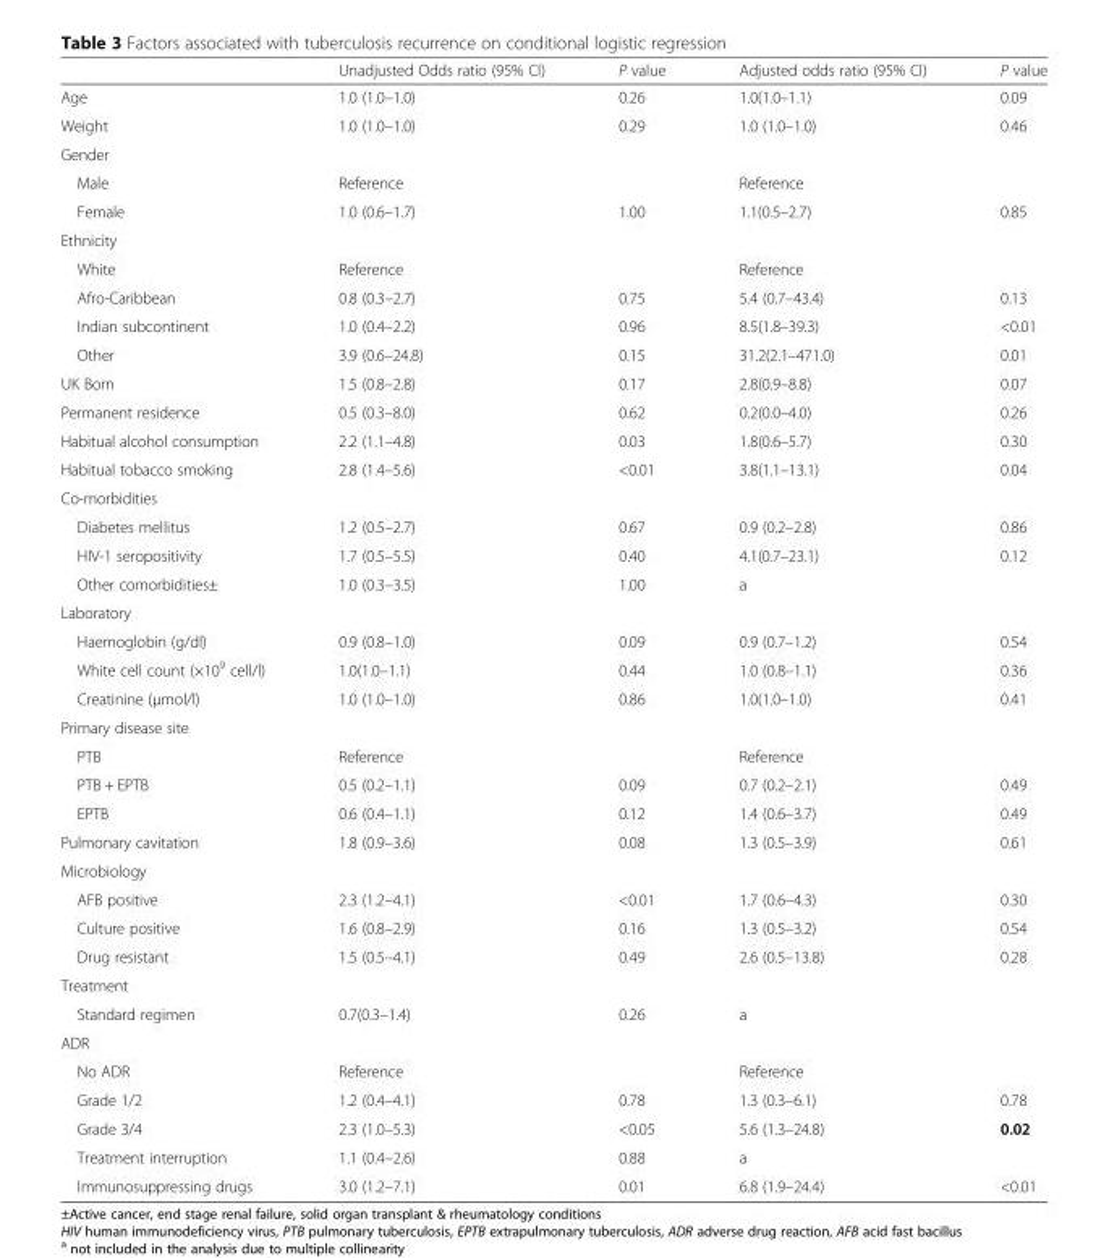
<table><thead><tr><td></td><td>Unadjusted Odds ratio (95% CI)</td><td>P value</td><td>Adjusted odds ratio (95% CI)</td><td>P value</td></tr></thead><tbody><tr><td>Age</td><td>1.0 (1.0–1.0)</td><td>0.26</td><td>1.0(1.0–1.1)</td><td>0.09</td></tr><tr><td>Weight</td><td>1.0 (1.0–1.0)</td><td>0.29</td><td>1.0 (1.0–1.0)</td><td>0.46</td></tr><tr><td colspan="5">Gender</td></tr><tr><td>Male</td><td>Reference</td><td></td><td>Reference</td><td></td></tr><tr><td>Female</td><td>1.0 (0.6–1.7)</td><td>1.00</td><td>1.1(0.5–2.7)</td><td>0.85</td></tr><tr><td colspan="5">Ethnicity</td></tr><tr><td>White</td><td>Reference</td><td></td><td>Reference</td><td></td></tr><tr><td>Afro-Caribbean</td><td>0.8 (0.3–2.7)</td><td>0.75</td><td>5.4 (0.7–43.4)</td><td>0.13</td></tr><tr><td>Indian subcontinent</td><td>1.0 (0.4–2.2)</td><td>0.96</td><td>8.5(1.8–39.3)</td><td>&lt;0.01</td></tr><tr><td>Other</td><td>3.9 (0.6–24.8)</td><td>0.15</td><td>31.2(2.1–471.0)</td><td>0.01</td></tr><tr><td>UK Born</td><td>1.5 (0.8–2.8)</td><td>0.17</td><td>2.8(0.9–8.8)</td><td>0.07</td></tr><tr><td>Permanent residence</td><td>0.5 (0.3–8.0)</td><td>0.62</td><td>0.2(0.0–4.0)</td><td>0.26</td></tr><tr><td>Habitual alcohol consumption</td><td>2.2 (1.1–4.8)</td><td>0.03</td><td>1.8(0.6–5.7)</td><td>0.30</td></tr><tr><td>Habitual tobacco smoking</td><td>2.8 (1.4–5.6)</td><td>&lt;0.01</td><td>3.8(1.1–13.1)</td><td>0.04</td></tr><tr><td colspan="5">Co-morbidities</td></tr><tr><td>Diabetes mellitus</td><td>1.2 (0.5–2.7)</td><td>0.67</td><td>0.9 (0.2–2.8)</td><td>0.86</td></tr><tr><td>HIV-1 seropositivity</td><td>1.7 (0.5–5.5)</td><td>0.40</td><td>4.1(0.7–23.1)</td><td>0.12</td></tr><tr><td>Other comorbidities±</td><td>1.0 (0.3–3.5)</td><td>1.00</td><td>a</td><td></td></tr><tr><td colspan="5">Laboratory</td></tr><tr><td>Haemoglobin (g/dl)</td><td>0.9 (0.8–1.0)</td><td>0.09</td><td>0.9 (0.7–1.2)</td><td>0.54</td></tr><tr><td>White cell count (×10<sup>9</sup> cell/l)</td><td>1.0(1.0–1.1)</td><td>0.44</td><td>1.0 (0.8–1.1)</td><td>0.36</td></tr><tr><td>Creatinine (μmol/l)</td><td>1.0 (1.0–1.0)</td><td>0.86</td><td>1.0(1.0–1.0)</td><td>0.41</td></tr><tr><td colspan="5">Primary disease site</td></tr><tr><td>PTB</td><td>Reference</td><td></td><td>Reference</td><td></td></tr><tr><td>PTB + EPTB</td><td>0.5 (0.2–1.1)</td><td>0.09</td><td>0.7 (0.2–2.1)</td><td>0.49</td></tr><tr><td>EPTB</td><td>0.6 (0.4–1.1)</td><td>0.12</td><td>1.4 (0.6–3.7)</td><td>0.49</td></tr><tr><td>Pulmonary cavitation</td><td>1.8 (0.9–3.6)</td><td>0.08</td><td>1.3 (0.5–3.9)</td><td>0.61</td></tr><tr><td colspan="5">Microbiology</td></tr><tr><td>AFB positive</td><td>2.3 (1.2–4.1)</td><td>&lt;0.01</td><td>1.7 (0.6–4.3)</td><td>0.30</td></tr><tr><td>Culture positive</td><td>1.6 (0.8–2.9)</td><td>0.16</td><td>1.3 (0.5–3.2)</td><td>0.54</td></tr><tr><td>Drug resistant</td><td>1.5 (0.5–4.1)</td><td>0.49</td><td>2.6 (0.5–13.8)</td><td>0.28</td></tr><tr><td colspan="5">Treatment</td></tr><tr><td>Standard regimen</td><td>0.7(0.3–1.4)</td><td>0.26</td><td>a</td><td></td></tr><tr><td colspan="5">ADR</td></tr><tr><td>No ADR</td><td>Reference</td><td></td><td>Reference</td><td></td></tr><tr><td>Grade 1/2</td><td>1.2 (0.4–4.1)</td><td>0.78</td><td>1.3 (0.3–6.1)</td><td>0.78</td></tr><tr><td>Grade 3/4</td><td>2.3 (1.0–5.3)</td><td>&lt;0.05</td><td>5.6 (1.3–24.8)</td><td>0.02</td></tr><tr><td>Treatment interruption</td><td>1.1 (0.4–2.6)</td><td>0.88</td><td>a</td><td></td></tr><tr><td>Immunosuppressing drugs</td><td>3.0 (1.2–7.1)</td><td>0.01</td><td>6.8 (1.9–24.4)</td><td>&lt;0.01</td></tr></tbody></table>